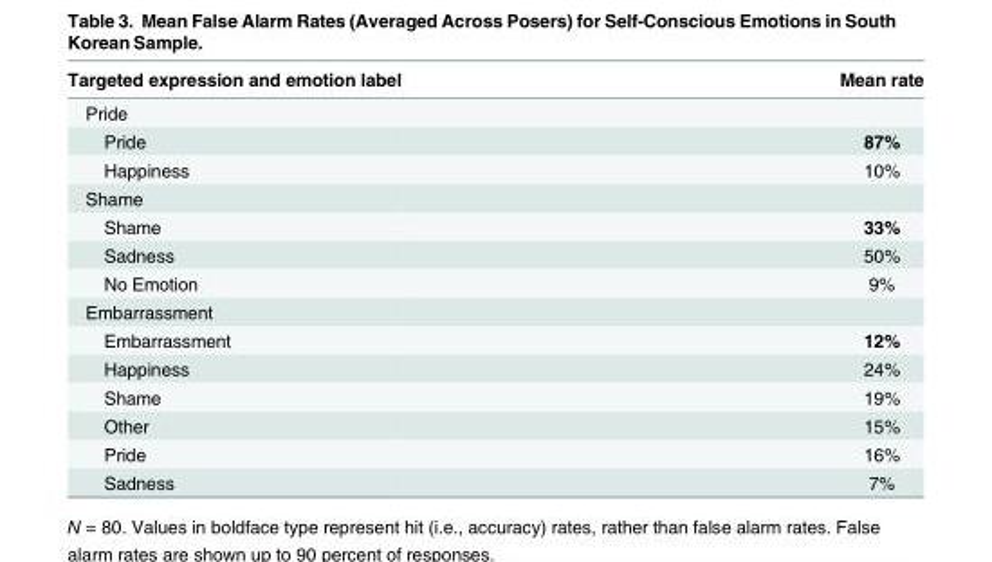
<table><thead><tr><td>Targeted expression and emotion label</td><td>Mean rate</td></tr></thead><tbody><tr><td colspan="2">Pride</td></tr><tr><td>Pride</td><td>87%</td></tr><tr><td>Happiness</td><td>10%</td></tr><tr><td colspan="2">Shame</td></tr><tr><td>Shame</td><td>33%</td></tr><tr><td>Sadness</td><td>50%</td></tr><tr><td>No Emotion</td><td>9%</td></tr><tr><td colspan="2">Embarrassment</td></tr><tr><td>Embarrassment</td><td>12%</td></tr><tr><td>Happiness</td><td>24%</td></tr><tr><td>Shame</td><td>19%</td></tr><tr><td>Other</td><td>15%</td></tr><tr><td>Pride</td><td>16%</td></tr><tr><td>Sadness</td><td>7%</td></tr></tbody></table>